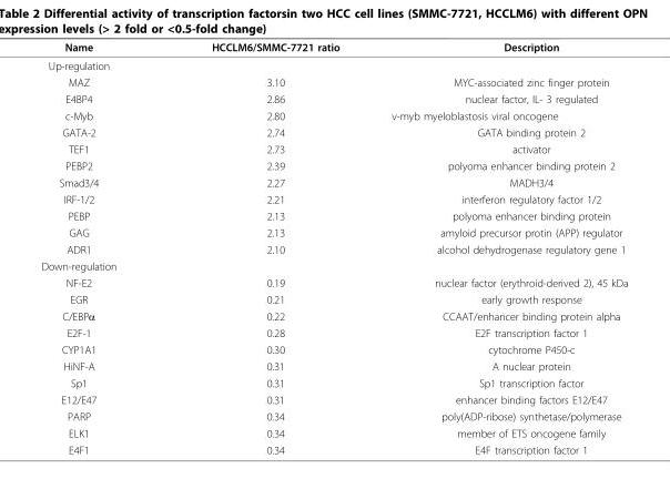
<table><thead><tr><td>Name</td><td>HCCLM6/SMMC-7721 ratio</td><td>Description</td></tr></thead><tbody><tr><td colspan="3">Up-regulation</td></tr><tr><td>MAZ</td><td>3.10</td><td>MYC-associated zinc finger protein</td></tr><tr><td>E4BP4</td><td>2.86</td><td>nuclear factor, IL- 3 regulated</td></tr><tr><td>c-Myb</td><td>2.80</td><td>v-myb myeloblastosis viral oncogene</td></tr><tr><td>GATA-2</td><td>2.74</td><td>GATA binding protein 2</td></tr><tr><td>TEF1</td><td>2.73</td><td>activator</td></tr><tr><td>PEBP2</td><td>2.39</td><td>polyoma enhancer binding protein 2</td></tr><tr><td>Smad3/4</td><td>2.27</td><td>MADH3/4</td></tr><tr><td>IRF-1/2</td><td>2.21</td><td>interferon regulatory factor 1/2</td></tr><tr><td>PEBP</td><td>2.13</td><td>polyoma enhancer binding protein</td></tr><tr><td>GAG</td><td>2.13</td><td>amyloid precursor protin (APP) regulator</td></tr><tr><td>ADR1</td><td>2.10</td><td>alcohol dehydrogenase regulatory gene 1</td></tr><tr><td colspan="3">Down-regulation</td></tr><tr><td>NF-E2</td><td>0.19</td><td>nuclear factor (erythroid-derived 2), 45 kDa</td></tr><tr><td>EGR</td><td>0.21</td><td>early growth response</td></tr><tr><td>C/EBPα</td><td>0.22</td><td>CCAAT/enhancer binding protein alpha</td></tr><tr><td>E2F-1</td><td>0.28</td><td>E2F transcription factor 1</td></tr><tr><td>CYP1A1</td><td>0.30</td><td>cytochrome P450-c</td></tr><tr><td>HiNF-A</td><td>0.31</td><td>A nuclear protein</td></tr><tr><td>Sp1</td><td>0.31</td><td>Sp1 transcription factor</td></tr><tr><td>E12/E47</td><td>0.31</td><td>enhancer binding factors E12/E47</td></tr><tr><td>PARP</td><td>0.34</td><td>poly(ADP-ribose) synthetase/polymerase</td></tr><tr><td>ELK1</td><td>0.34</td><td>member of ETS oncogene family</td></tr><tr><td>E4F1</td><td>0.34</td><td>E4F transcription factor 1</td></tr></tbody></table>